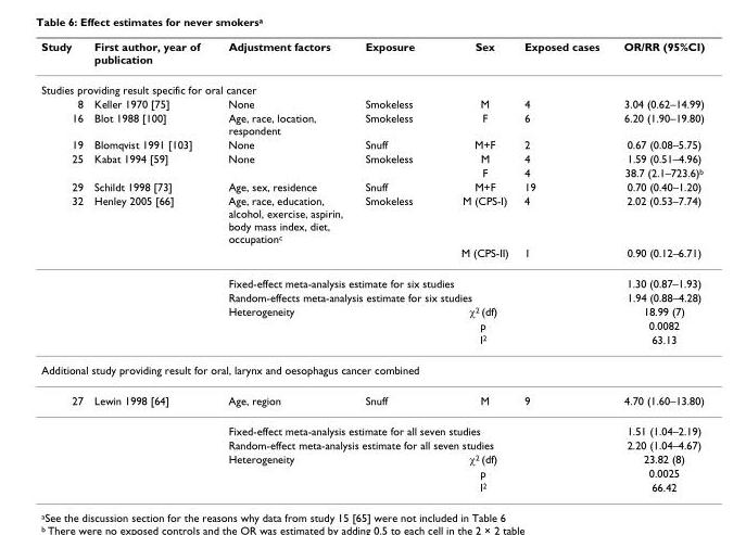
<table><thead><tr><td>Study</td><td>First author, year of publication</td><td>Adjustment factors</td><td>Exposure</td><td>Sex</td><td>Exposed cases</td><td>OR/RR (95%CI)</td></tr></thead><tbody><tr><td colspan="7">Studies providing result specific for oral cancer</td></tr><tr><td>8</td><td>Keller 1970 [75]</td><td>None</td><td>Smokeless</td><td>M</td><td>4</td><td>3.04 (0.62–14.99)</td></tr><tr><td>16</td><td>Blot 1988 [100]</td><td>Age, race, location, respondent</td><td>Smokeless</td><td>F</td><td>6</td><td>6.20 (1.90–19.80)</td></tr><tr><td>19</td><td>Blomqvist 1991 [103]</td><td>None</td><td>Snuff</td><td>M+F</td><td>2</td><td>0.67 (0.08–5.75)</td></tr><tr><td rowspan="2">25</td><td>Kabat 1994 [59]</td><td>None</td><td>Smokeless</td><td>M</td><td>4</td><td>1.59 (0.51–4.96)</td></tr><tr><td></td><td></td><td></td><td>F</td><td>4</td><td>38.7 (2.1–723.6)<sup>b</sup></td></tr><tr><td>29</td><td>Schildt 1998 [73]</td><td>Age, sex, residence</td><td>Snuff</td><td>M+F</td><td>19</td><td>0.70 (0.40–1.20)</td></tr><tr><td rowspan="7">32</td><td>Henley 2005 [66]</td><td>Age, race, education, alcohol, exercise, aspirin, body mass index, diet, occupation<sup>c</sup></td><td>Smokeless</td><td>M (CPS-I)</td><td>4</td><td>2.02 (0.53–7.74)</td></tr><tr><td></td><td></td><td></td><td>M (CPS-II)</td><td>1</td><td>0.90 (0.12–6.71)</td></tr><tr><td></td><td colspan="4">Fixed-effect meta-analysis estimate for six studies</td><td>1.30 (0.87–1.93)</td></tr><tr><td></td><td colspan="4">Random-effects meta-analysis estimate for six studies</td><td>1.94 (0.88–4.28)</td></tr><tr><td></td><td>Heterogeneity</td><td colspan="3">χ<sup>2</sup> (df)</td><td>18.99 (7)</td></tr><tr><td></td><td></td><td colspan="3">p</td><td>0.0082</td></tr><tr><td></td><td></td><td colspan="3">I<sup>2</sup></td><td>63.13</td></tr><tr><td colspan="7">Additional study providing result for oral, larynx and oesophagus cancer combined</td></tr><tr><td rowspan="6">27</td><td>Lewin 1998 [64]</td><td>Age, region</td><td>Snuff</td><td>M</td><td>9</td><td>4.70 (1.60–13.80)</td></tr><tr><td></td><td colspan="4">Fixed-effect meta-analysis estimate for all seven studies</td><td>1.51 (1.04–2.19)</td></tr><tr><td></td><td colspan="4">Random-effect meta-analysis estimate for all seven studies</td><td>2.20 (1.04–4.67)</td></tr><tr><td></td><td>Heterogeneity</td><td colspan="3">χ<sup>2</sup> (df)</td><td>23.82 (8)</td></tr><tr><td></td><td></td><td colspan="3">p</td><td>0.0025</td></tr><tr><td></td><td></td><td colspan="3">I<sup>2</sup></td><td>66.42</td></tr></tbody></table>